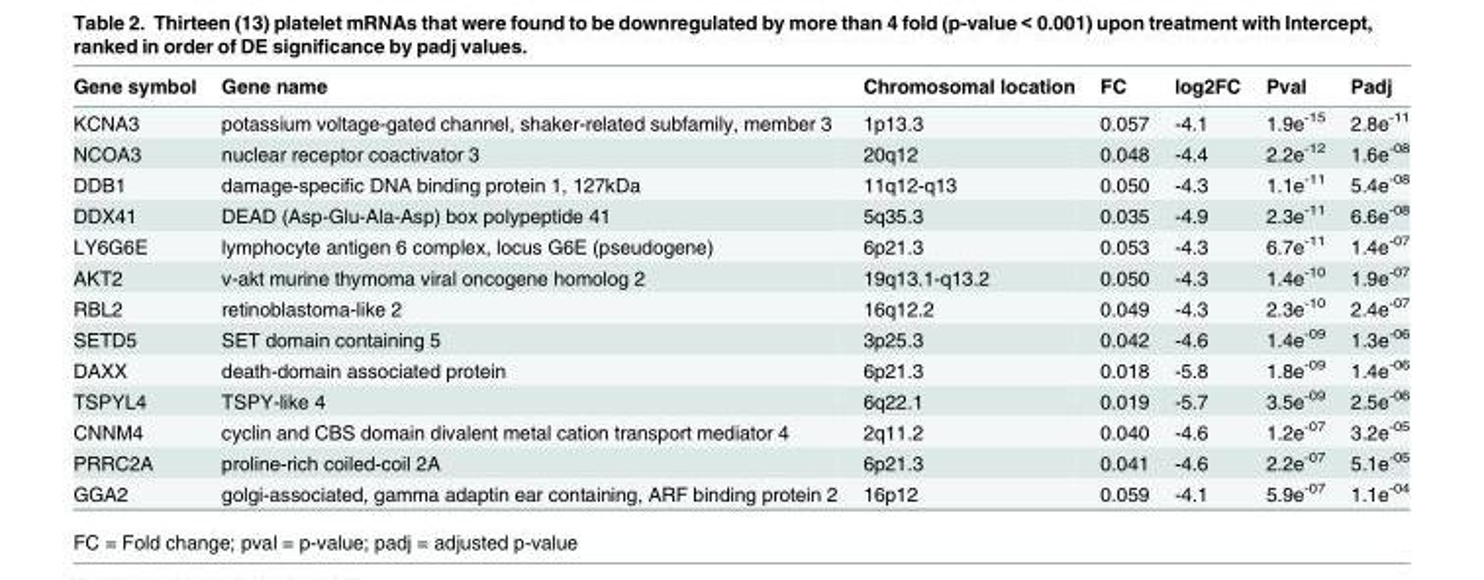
<table><thead><tr><td>Gene symbol</td><td>Gene name</td><td>Chromosomal location</td><td>FC</td><td>log2FC</td><td>Pval</td><td>Padj</td></tr></thead><tbody><tr><td>KCNA3</td><td>potassium voltage-gated channel, shaker-related subfamily, member 3</td><td>1p13.3</td><td>0.057</td><td>-4.1</td><td>1.9e<sup>-15</sup></td><td>2.8e<sup>-11</sup></td></tr><tr><td>NCOA3</td><td>nuclear receptor coactivator 3</td><td>20q12</td><td>0.048</td><td>-4.4</td><td>2.2e<sup>-12</sup></td><td>1.6e<sup>-08</sup></td></tr><tr><td>DDB1</td><td>damage-specific DNA binding protein 1, 127kDa</td><td>11q12-q13</td><td>0.050</td><td>-4.3</td><td>1.1e<sup>-11</sup></td><td>5.4e<sup>-08</sup></td></tr><tr><td>DDX41</td><td>DEAD (Asp-Glu-Ala-Asp) box polypeptide 41</td><td>5q35.3</td><td>0.035</td><td>-4.9</td><td>2.3e<sup>-11</sup></td><td>6.6e<sup>-08</sup></td></tr><tr><td>LY6G6E</td><td>lymphocyte antigen 6 complex, locus G6E (pseudogene)</td><td>6p21.3</td><td>0.053</td><td>-4.3</td><td>6.7e<sup>-11</sup></td><td>1.4e<sup>-07</sup></td></tr><tr><td>AKT2</td><td>v-akt murine thymoma viral oncogene homolog 2</td><td>19q13.1-q13.2</td><td>0.050</td><td>-4.3</td><td>1.4e<sup>-10</sup></td><td>1.9e<sup>-07</sup></td></tr><tr><td>RBL2</td><td>retinoblastoma-like 2</td><td>16q12.2</td><td>0.049</td><td>-4.3</td><td>2.3e<sup>-10</sup></td><td>2.4e<sup>-07</sup></td></tr><tr><td>SETD5</td><td>SET domain containing 5</td><td>3p25.3</td><td>0.042</td><td>-4.6</td><td>1.4e<sup>-09</sup></td><td>1.3e<sup>-06</sup></td></tr><tr><td>DAXX</td><td>death-domain associated protein</td><td>6p21.3</td><td>0.018</td><td>-5.8</td><td>1.8e<sup>-09</sup></td><td>1.4e<sup>-06</sup></td></tr><tr><td>TSPYL4</td><td>TSPY-like 4</td><td>6q22.1</td><td>0.019</td><td>-5.7</td><td>3.5e<sup>-09</sup></td><td>2.5e<sup>-06</sup></td></tr><tr><td>CNNM4</td><td>cyclin and CBS domain divalent metal cation transport mediator 4</td><td>2q11.2</td><td>0.040</td><td>-4.6</td><td>1.2e<sup>-07</sup></td><td>3.2e<sup>-05</sup></td></tr><tr><td>PRRC2A</td><td>proline-rich coiled-coil 2A</td><td>6p21.3</td><td>0.041</td><td>-4.6</td><td>2.2e<sup>-07</sup></td><td>5.1e<sup>-05</sup></td></tr><tr><td>GGA2</td><td>golgi-associated, gamma adaptin ear containing, ARF binding protein 2</td><td>16p12</td><td>0.059</td><td>-4.1</td><td>5.9e<sup>-07</sup></td><td>1.1e<sup>-04</sup></td></tr></tbody></table>